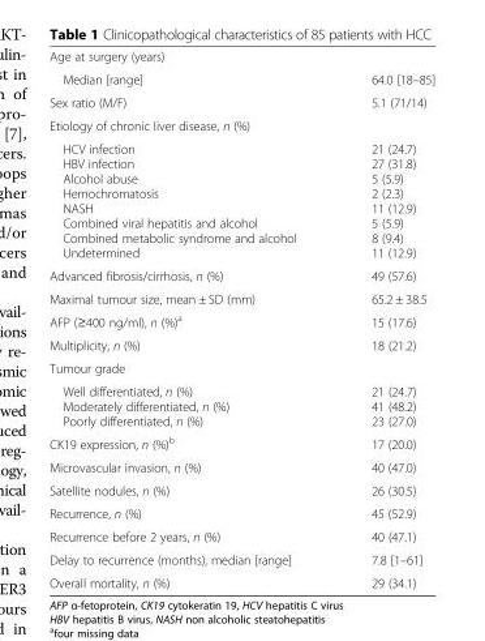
<table><tbody><tr><td colspan="2">Age at surgery (years)</td></tr><tr><td>Median [range]</td><td>64.0 [18–85]</td></tr><tr><td>Sex ratio (M/F)</td><td>5.1 (71/14)</td></tr><tr><td colspan="2">Etiology of chronic liver disease, n (%)</td></tr><tr><td>HCV infection HBV infection Alcohol abuse Hemochromatosis NASH Combined viral hepatitis and alcohol Combined metabolic syndrome and alcohol Undetermined</td><td>21 (24.7) 27 (31.8) 5 (5.9) 2 (2.3) 11 (12.9) 5 (5.9) 8 (9.4) 11 (12.9)</td></tr><tr><td>Advanced fibrosis/cirrhosis, n (%)</td><td>49 (57.6)</td></tr><tr><td>Maximal tumour size, mean ± SD (mm)</td><td>65.2 ± 38.5</td></tr><tr><td>AFP (≥400 ng/ml), n (%)<sup>a</sup></td><td>15 (17.6)</td></tr><tr><td>Multiplicity, n (%)</td><td>18 (21.2)</td></tr><tr><td colspan="2">Tumour grade</td></tr><tr><td>Well differentiated, n (%) Moderately differentiated, n (%) Poorly differentiated, n (%)</td><td>21 (24.7) 41 (48.2) 23 (27.0)</td></tr><tr><td>CK19 expression, n (%)<sup>b</sup></td><td>17 (20.0)</td></tr><tr><td>Microvascular invasion, n (%)</td><td>40 (47.0)</td></tr><tr><td>Satellite nodules, n (%)</td><td>26 (30.5)</td></tr><tr><td>Recurrence, n (%)</td><td>45 (52.9)</td></tr><tr><td>Recurrence before 2 years, n (%)</td><td>40 (47.1)</td></tr><tr><td>Delay to recurrence (months), median [range]</td><td>7.8 [1–61]</td></tr><tr><td>Overall mortality, n (%)</td><td>29 (34.1)</td></tr></tbody></table>